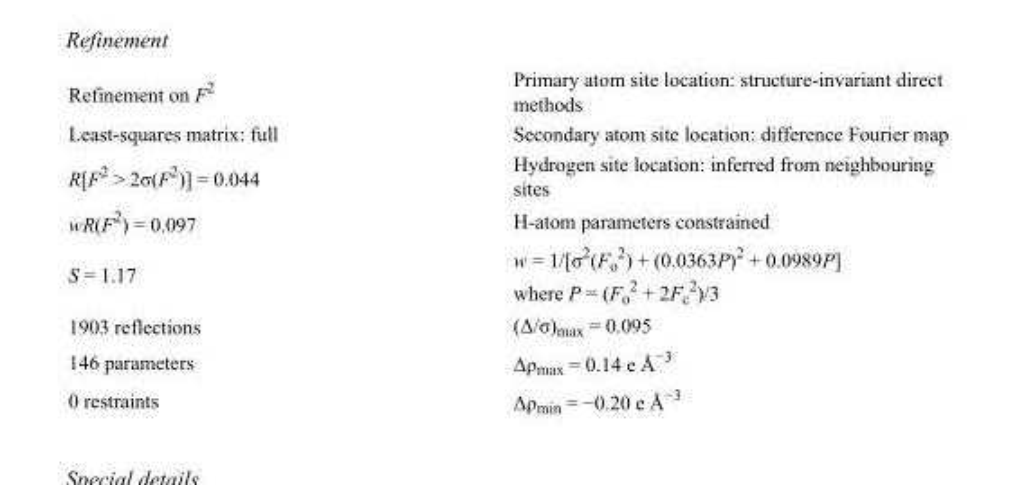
<table><tbody><tr><td>Refinement on F<sup>2</sup></td><td>Primary atom site location: structure-invariant direct methods</td></tr><tr><td>Least-squares matrix: full</td><td>Secondary atom site location: difference Fourier map</td></tr><tr><td>R[F<sup>2</sup> &gt; 2σ(F<sup>2</sup>)] = 0.044</td><td>Hydrogen site location: inferred from neighbouring sites</td></tr><tr><td>wR(F<sup>2</sup>) = 0.097</td><td>H-atom parameters constrained</td></tr><tr><td>S = 1.17</td><td>w = 1/[σ<sup>2</sup>(F<sub>o</sub> <sup>2</sup>) + (0.0363P)<sup>2</sup> + 0.0989P] where P = (F<sub>o</sub> <sup>2</sup> + 2F<sub>c</sub> <sup>2</sup>)/3</td></tr><tr><td>1903 reflections</td><td>(Δ/σ)<sub>max</sub> = 0.095</td></tr><tr><td>146 parameters</td><td>Δρ<sub>max</sub> = 0.14 e Å<sup>−3</sup></td></tr><tr><td>0 restraints</td><td>Δρ<sub>min</sub> = −0.20 e Å<sup>−3</sup></td></tr></tbody></table>